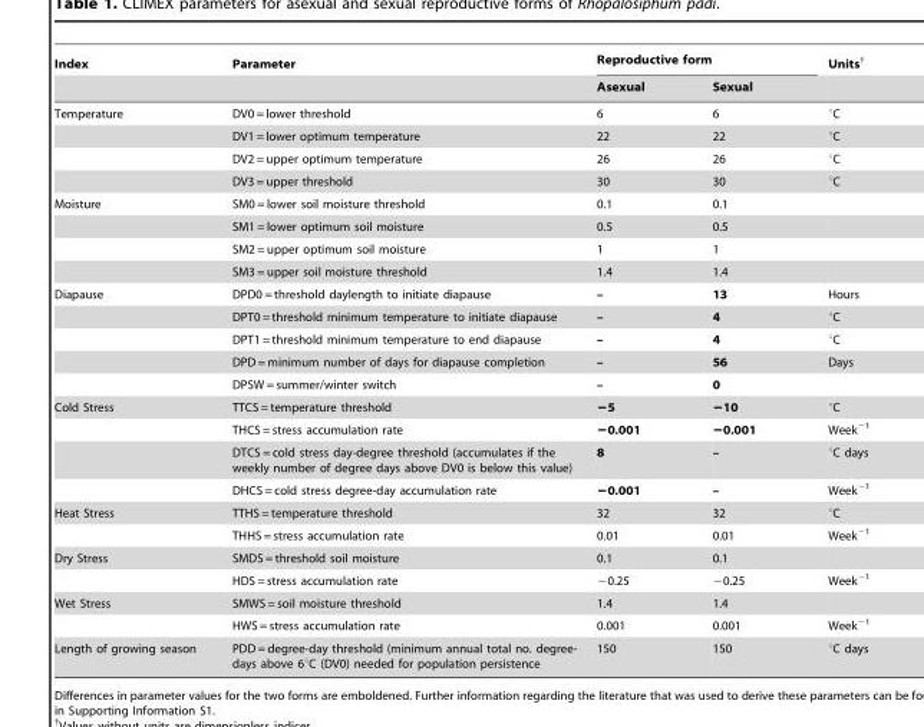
<table><thead><tr><td rowspan="2">Index</td><td rowspan="2">Parameter</td><td colspan="2">Reproductive form</td><td rowspan="2">Units†</td></tr><tr><td>Asexual</td><td>Sexual</td></tr></thead><tbody><tr><td rowspan="4">Temperature</td><td>DV0 = lower threshold</td><td>6</td><td>6</td><td>°C</td></tr><tr><td>DV1 = lower optimum temperature</td><td>22</td><td>22</td><td>°C</td></tr><tr><td>DV2 = upper optimum temperature</td><td>26</td><td>26</td><td>°C</td></tr><tr><td>DV3 = upper threshold</td><td>30</td><td>30</td><td>°C</td></tr><tr><td rowspan="4">Moisture</td><td>SM0 = lower soil moisture threshold</td><td>0.1</td><td>0.1</td><td></td></tr><tr><td>SM1 = lower optimum soil moisture</td><td>0.5</td><td>0.5</td><td></td></tr><tr><td>SM2 = upper optimum soil moisture</td><td>1</td><td>1</td><td></td></tr><tr><td>SM3 = upper soil moisture threshold</td><td>1.4</td><td>1.4</td><td></td></tr><tr><td rowspan="5">Diapause</td><td>DPD0 = threshold daylength to initiate diapause</td><td>–</td><td>13</td><td>Hours</td></tr><tr><td>DPT0 = threshold minimum temperature to initiate diapause</td><td>–</td><td>4</td><td>°C</td></tr><tr><td>DPT1 = threshold minimum temperature to end diapause</td><td>–</td><td>4</td><td>°C</td></tr><tr><td>DPD = minimum number of days for diapause completion</td><td>–</td><td>56</td><td>Days</td></tr><tr><td>DPSW = summer/winter switch</td><td>–</td><td>0</td><td></td></tr><tr><td rowspan="4">Cold Stress</td><td>TTCS = temperature threshold</td><td>−5</td><td>−10</td><td>°C</td></tr><tr><td>THCS = stress accumulation rate</td><td>−0.001</td><td>−0.001</td><td>Week<sup>−1</sup></td></tr><tr><td>DTCS = cold stress day-degree threshold (accumulates if the weekly number of degree days above DV0 is below this value)</td><td>8</td><td>–</td><td>°C days</td></tr><tr><td>DHCS = cold stress degree-day accumulation rate</td><td>−0.001</td><td>–</td><td>Week<sup>−1</sup></td></tr><tr><td rowspan="2">Heat Stress</td><td>TTHS = temperature threshold</td><td>32</td><td>32</td><td>°C</td></tr><tr><td>THHS = stress accumulation rate</td><td>0.01</td><td>0.01</td><td>Week<sup>−1</sup></td></tr><tr><td rowspan="2">Dry Stress</td><td>SMDS = threshold soil moisture</td><td>0.1</td><td>0.1</td><td></td></tr><tr><td>HDS = stress accumulation rate</td><td>−0.25</td><td>−0.25</td><td>Week<sup>−1</sup></td></tr><tr><td rowspan="2">Wet Stress</td><td>SMWS = soil moisture threshold</td><td>1.4</td><td>1.4</td><td></td></tr><tr><td>HWS = stress accumulation rate</td><td>0.001</td><td>0.001</td><td>Week<sup>−1</sup></td></tr><tr><td>Length of growing season</td><td>PDD = degree-day threshold (minimum annual total no. degree- days above 6°C (DV0) needed for population persistence</td><td>150</td><td>150</td><td>°C days</td></tr></tbody></table>